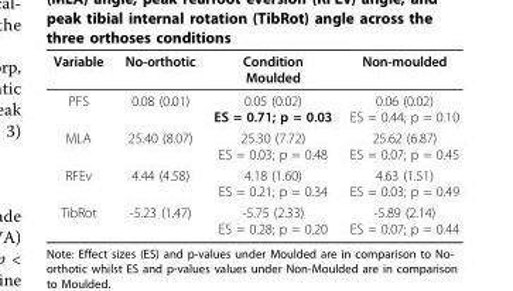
<table><thead><tr><td>Variable</td><td>No-orthotic</td><td>Condition Moulded</td><td>Non-moulded</td></tr></thead><tbody><tr><td>PFS</td><td>0.08 (0.01)</td><td>0.05 (0.02) ES = 0.71; p = 0.03</td><td>0.06 (0.02) ES = 0.44; p = 0.10</td></tr><tr><td>MLA</td><td>25.40 (8.07)</td><td>25.30 (7.72) ES = 0.03; p = 0.48</td><td>25.62 (6.87) ES = 0.07; p = 0.45</td></tr><tr><td>RFEv</td><td>4.44 (4.58)</td><td>4.18 (1.60) ES = 0.21; p = 0.34</td><td>4.63 (1.51) ES = 0.03; p = 0.49</td></tr><tr><td>TibRot</td><td>-5.23 (1.47)</td><td>-5.75 (2.33) ES = 0.28; p = 0.20</td><td>-5.89 (2.14) ES = 0.07; p = 0.44</td></tr></tbody></table>